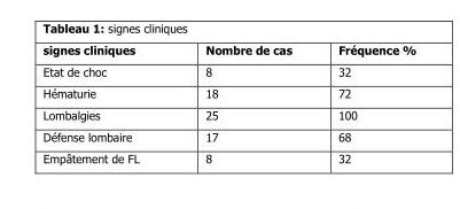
<table><thead><tr><td>signes cliniques</td><td>Nombre de cas</td><td>Fréquence %</td></tr></thead><tbody><tr><td>Etat de choc</td><td>8</td><td>32</td></tr><tr><td>Hématurie</td><td>18</td><td>72</td></tr><tr><td>Lombalgies</td><td>25</td><td>100</td></tr><tr><td>Défense lombaire</td><td>17</td><td>68</td></tr><tr><td>Empâtement de FL</td><td>8</td><td>32</td></tr></tbody></table>